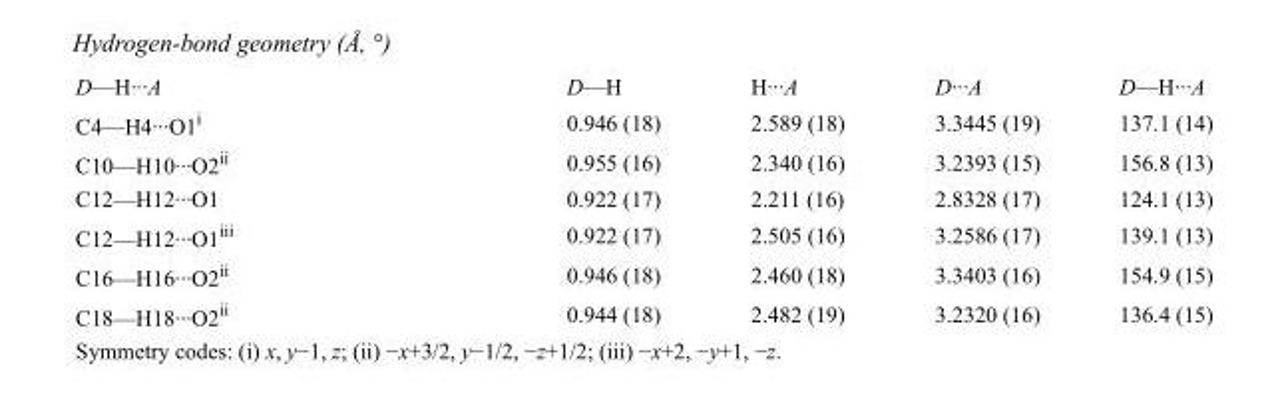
<table><tbody><tr><td>D—H···A</td><td>D—H</td><td>H···A</td><td>D···A</td><td>D—H···A</td></tr><tr><td>C4—H4···O1<sup>i</sup></td><td>0.946 (18)</td><td>2.589 (18)</td><td>3.3445 (19)</td><td>137.1 (14)</td></tr><tr><td>C10—H10···O2<sup>ii</sup></td><td>0.955 (16)</td><td>2.340 (16)</td><td>3.2393 (15)</td><td>156.8 (13)</td></tr><tr><td>C12—H12···O1</td><td>0.922 (17)</td><td>2.211 (16)</td><td>2.8328 (17)</td><td>124.1 (13)</td></tr><tr><td>C12—H12···O1<sup>iii</sup></td><td>0.922 (17)</td><td>2.505 (16)</td><td>3.2586 (17)</td><td>139.1 (13)</td></tr><tr><td>C16—H16···O2<sup>ii</sup></td><td>0.946 (18)</td><td>2.460 (18)</td><td>3.3403 (16)</td><td>154.9 (15)</td></tr><tr><td>C18—H18···O2<sup>ii</sup></td><td>0.944 (18)</td><td>2.482 (19)</td><td>3.2320 (16)</td><td>136.4 (15)</td></tr></tbody></table>